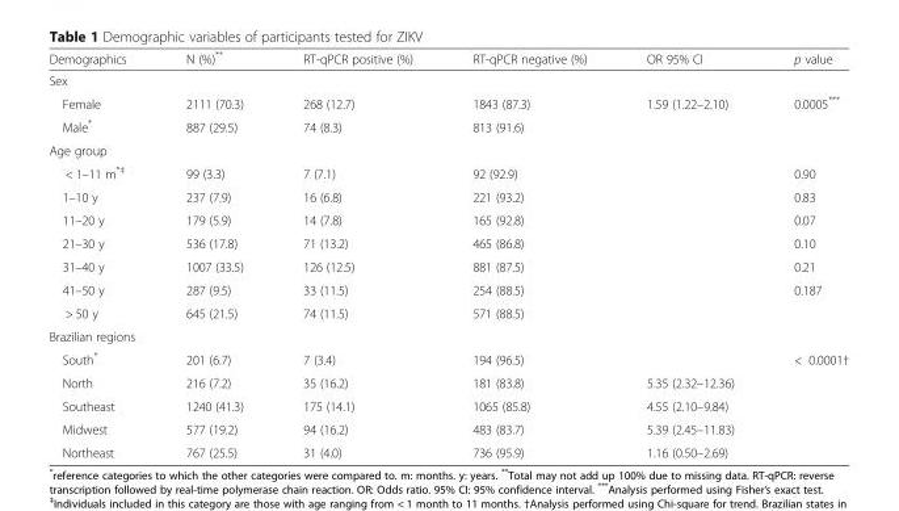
<table><thead><tr><td>Demographics</td><td>N (%)**</td><td>RT-qPCR positive (%)</td><td>RT-qPCR negative (%)</td><td>OR 95% CI</td><td>p value</td></tr></thead><tbody><tr><td colspan="6">Sex</td></tr><tr><td>Female</td><td>2111 (70.3)</td><td>268 (12.7)</td><td>1843 (87.3)</td><td>1.59 (1.22–2.10)</td><td>0.0005***</td></tr><tr><td>Male*</td><td>887 (29.5)</td><td>74 (8.3)</td><td>813 (91.6)</td><td></td><td></td></tr><tr><td colspan="6">Age group</td></tr><tr><td>&lt; 1–11 m<sup>*‡</sup></td><td>99 (3.3)</td><td>7 (7.1)</td><td>92 (92.9)</td><td></td><td>0.90</td></tr><tr><td>1–10 y</td><td>237 (7.9)</td><td>16 (6.8)</td><td>221 (93.2)</td><td></td><td>0.83</td></tr><tr><td>11–20 y</td><td>179 (5.9)</td><td>14 (7.8)</td><td>165 (92.8)</td><td></td><td>0.07</td></tr><tr><td>21–30 y</td><td>536 (17.8)</td><td>71 (13.2)</td><td>465 (86.8)</td><td></td><td>0.10</td></tr><tr><td>31–40 y</td><td>1007 (33.5)</td><td>126 (12.5)</td><td>881 (87.5)</td><td></td><td>0.21</td></tr><tr><td>41–50 y</td><td>287 (9.5)</td><td>33 (11.5)</td><td>254 (88.5)</td><td></td><td>0.187</td></tr><tr><td>&gt; 50 y</td><td>645 (21.5)</td><td>74 (11.5)</td><td>571 (88.5)</td><td></td><td></td></tr><tr><td colspan="6">Brazilian regions</td></tr><tr><td>South*</td><td>201 (6.7)</td><td>7 (3.4)</td><td>194 (96.5)</td><td></td><td>&lt; 0.0001†</td></tr><tr><td>North</td><td>216 (7.2)</td><td>35 (16.2)</td><td>181 (83.8)</td><td>5.35 (2.32–12.36)</td><td></td></tr><tr><td>Southeast</td><td>1240 (41.3)</td><td>175 (14.1)</td><td>1065 (85.8)</td><td>4.55 (2.10–9.84)</td><td></td></tr><tr><td>Midwest</td><td>577 (19.2)</td><td>94 (16.2)</td><td>483 (83.7)</td><td>5.39 (2.45–11.83)</td><td></td></tr><tr><td>Northeast</td><td>767 (25.5)</td><td>31 (4.0)</td><td>736 (95.9)</td><td>1.16 (0.50–2.69)</td><td></td></tr></tbody></table>